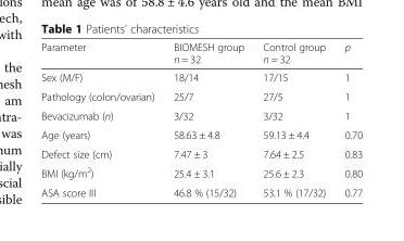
<table><thead><tr><td>Parameter</td><td>BIOMESH group n = 32</td><td>Control group n = 32</td><td>p</td></tr></thead><tbody><tr><td>Sex (M/F)</td><td>18/14</td><td>17/15</td><td>1</td></tr><tr><td>Pathology (colon/ovarian)</td><td>25/7</td><td>27/5</td><td>1</td></tr><tr><td>Bevacizumab (n)</td><td>3/32</td><td>3/32</td><td>1</td></tr><tr><td>Age (years)</td><td>58.63 ± 4.8</td><td>59.13 ± 4.4</td><td>0.70</td></tr><tr><td>Defect size (cm)</td><td>7.47 ± 3</td><td>7.64 ± 2.5</td><td>0.83</td></tr><tr><td>BMI (kg/m<sup>2</sup>)</td><td>25.4 ± 3.1</td><td>25.6 ± 2.3</td><td>0.80</td></tr><tr><td>ASA score III</td><td>46.8 % (15/32)</td><td>53.1 % (17/32)</td><td>0.77</td></tr></tbody></table>